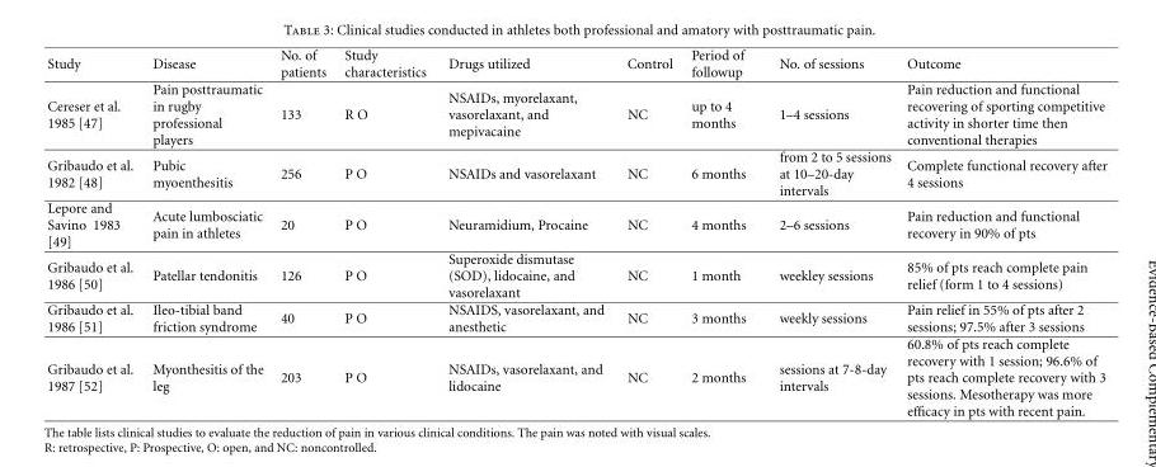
<table><thead><tr><td>Study</td><td>Disease</td><td>No. of patients</td><td>Study characteristics</td><td>Drugs utilized</td><td>Control</td><td>Period of followup</td><td>No. of sessions</td><td>Outcome</td></tr></thead><tbody><tr><td>Cereser et al. 1985 [47]</td><td>Pain posttraumatic in rugby professional players</td><td>133</td><td>R O</td><td>NSAIDs, myorelaxant, vasorelaxant, and mepivacaine</td><td>NC</td><td>up to 4 months</td><td>1–4 sessions</td><td>Pain reduction and functional recovering of sporting competitive activity in shorter time then conventional therapies</td></tr><tr><td>Gribaudo et al. 1982 [48]</td><td>Pubic myoenthesitis</td><td>256</td><td>P O</td><td>NSAIDs and vasorelaxant</td><td>NC</td><td>6 months</td><td>from 2 to 5 sessions at 10–20-day intervals</td><td>Complete functional recovery after 4 sessions</td></tr><tr><td>Lepore and Savino 1983 [49]</td><td>Acute lumbosciatic pain in athletes</td><td>20</td><td>P O</td><td>Neuramidium, Procaine</td><td>NC</td><td>4 months</td><td>2–6 sessions</td><td>Pain reduction and functional recovery in 90% of pts</td></tr><tr><td>Gribaudo et al. 1986 [50]</td><td>Patellar tendonitis</td><td>126</td><td>P O</td><td>Superoxide dismutase (SOD), lidocaine, and vasorelaxant</td><td>NC</td><td>1 month</td><td>weekley sessions</td><td>85% of pts reach complete pain relief (form 1 to 4 sessions)</td></tr><tr><td>Gribaudo et al. 1986 [51]</td><td>Ileo-tibial band friction syndrome</td><td>40</td><td>P O</td><td>NSAIDS, vasorelaxant, and anesthetic</td><td>NC</td><td>3 months</td><td>weekly sessions</td><td>Pain relief in 55% of pts after 2 sessions; 97.5% after 3 sessions</td></tr><tr><td>Gribaudo et al. 1987 [52]</td><td>Myonthesitis of the leg</td><td>203</td><td>P O</td><td>NSAIDs, vasorelaxant, and lidocaine</td><td>NC</td><td>2 months</td><td>sessions at 7-8-day intervals</td><td>60.8% of pts reach complete recovery with 1 session; 96.6% of pts reach complete recovery with 3 sessions. Mesotherapy was more efficacy in pts with recent pain.</td></tr></tbody></table>